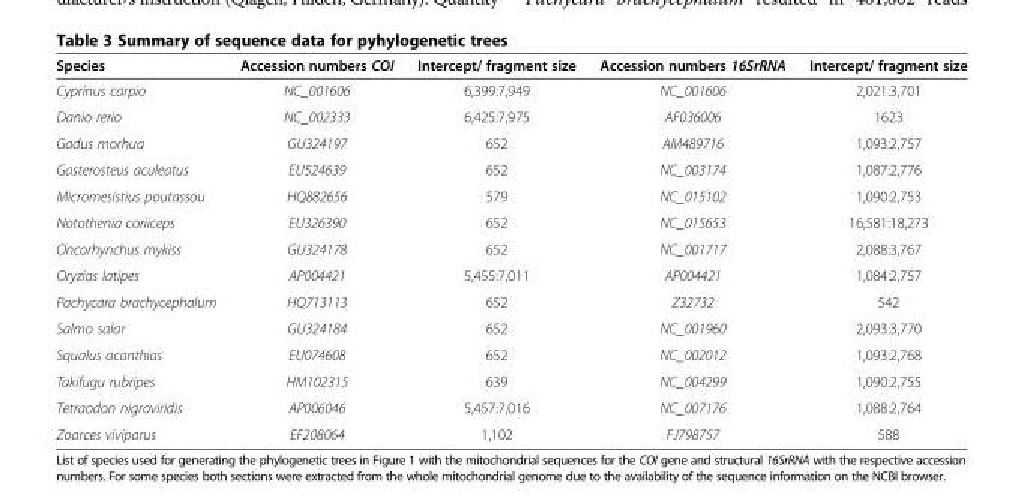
<table><thead><tr><td>Species</td><td>Accession numbers COI</td><td>Intercept/ fragment size</td><td>Accession numbers 16SrRNA</td><td>Intercept/ fragment size</td></tr></thead><tbody><tr><td>Cyprinus carpio</td><td>NC_001606</td><td>6,399:7,949</td><td>NC_001606</td><td>2,021:3,701</td></tr><tr><td>Danio rerio</td><td>NC_002333</td><td>6,425:7,975</td><td>AF036006</td><td>1623</td></tr><tr><td>Gadus morhua</td><td>GU324197</td><td>652</td><td>AM489716</td><td>1,093:2,757</td></tr><tr><td>Gasterosteus aculeatus</td><td>EU524639</td><td>652</td><td>NC_003174</td><td>1,087:2,776</td></tr><tr><td>Micromesistius poutassou</td><td>HQ882656</td><td>579</td><td>NC_015102</td><td>1,090:2,753</td></tr><tr><td>Notothenia coriiceps</td><td>EU326390</td><td>652</td><td>NC_015653</td><td>16,581:18,273</td></tr><tr><td>Oncorhynchus mykiss</td><td>GU324178</td><td>652</td><td>NC_001717</td><td>2,088:3,767</td></tr><tr><td>Oryzias latipes</td><td>AP004421</td><td>5,455:7,011</td><td>AP004421</td><td>1,084:2,757</td></tr><tr><td>Pachycara brachycephalum</td><td>HQ713113</td><td>652</td><td>Z32732</td><td>542</td></tr><tr><td>Salmo salar</td><td>GU324184</td><td>652</td><td>NC_001960</td><td>2,093:3,770</td></tr><tr><td>Squalus acanthias</td><td>EU074608</td><td>652</td><td>NC_002012</td><td>1,093:2,768</td></tr><tr><td>Takifugu rubripes</td><td>HM102315</td><td>639</td><td>NC_004299</td><td>1,090:2,755</td></tr><tr><td>Tetraodon nigroviridis</td><td>AP006046</td><td>5,457:7,016</td><td>NC_007176</td><td>1,088:2,764</td></tr><tr><td>Zoarces viviparus</td><td>EF208064</td><td>1,102</td><td>FJ798757</td><td>588</td></tr></tbody></table>